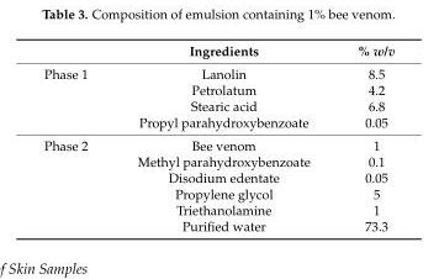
<table><thead><tr><td></td><td>Ingredients</td><td>% w/v</td></tr></thead><tbody><tr><td rowspan="4">Phase 1</td><td>Lanolin</td><td>8.5</td></tr><tr><td>Petrolatum</td><td>4.2</td></tr><tr><td>Stearic acid</td><td>6.8</td></tr><tr><td>Propyl parahydroxybenzoate</td><td>0.05</td></tr><tr><td rowspan="6">Phase 2</td><td>Bee venom</td><td>1</td></tr><tr><td>Methyl parahydroxybenzoate</td><td>0.1</td></tr><tr><td>Disodium edentate</td><td>0.05</td></tr><tr><td>Propylene glycol</td><td>5</td></tr><tr><td>Triethanolamine</td><td>1</td></tr><tr><td>Purified water</td><td>73.3</td></tr></tbody></table>